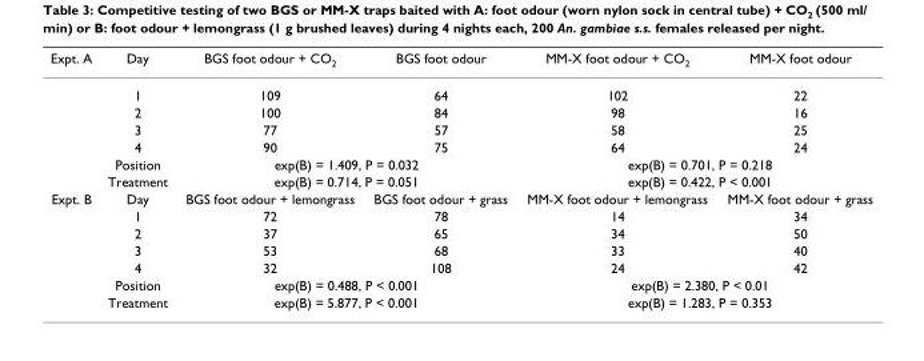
<table><thead><tr><td>Expt. A</td><td>Day</td><td>BGS foot odour + CO<sub>2</sub></td><td>BGS foot odour</td><td>MM-X foot odour + CO<sub>2</sub></td><td>MM-X foot odour</td></tr></thead><tbody><tr><td></td><td>1</td><td>109</td><td>64</td><td>102</td><td>22</td></tr><tr><td></td><td>2</td><td>100</td><td>84</td><td>98</td><td>16</td></tr><tr><td></td><td>3</td><td>77</td><td>57</td><td>58</td><td>25</td></tr><tr><td></td><td>4</td><td>90</td><td>75</td><td>64</td><td>24</td></tr><tr><td></td><td>Position</td><td colspan="2">exp(B) = 1.409, P = 0.032</td><td colspan="2">exp(B) = 0.701, P = 0.218</td></tr><tr><td></td><td>Treatment</td><td colspan="2">exp(B) = 0.714, P = 0.051</td><td colspan="2">exp(B) = 0.422, P &lt; 0.001</td></tr><tr><td rowspan="7">Expt. B</td><td>Day</td><td>BGS foot odour + lemongrass</td><td>BGS foot odour + grass</td><td>MM-X foot odour + lemongrass</td><td>MM-X foot odour + grass</td></tr><tr><td>1</td><td>72</td><td>78</td><td>14</td><td>34</td></tr><tr><td>2</td><td>37</td><td>65</td><td>34</td><td>50</td></tr><tr><td>3</td><td>53</td><td>68</td><td>33</td><td>40</td></tr><tr><td>4</td><td>32</td><td>108</td><td>24</td><td>42</td></tr><tr><td>Position</td><td colspan="2">exp(B) = 0.488, P &lt; 0.001</td><td colspan="2">exp(B) = 2.380, P &lt; 0.01</td></tr><tr><td>Treatment</td><td colspan="2">exp(B) = 5.877, P &lt; 0.001</td><td colspan="2">exp(B) = 1.283, P = 0.353</td></tr></tbody></table>